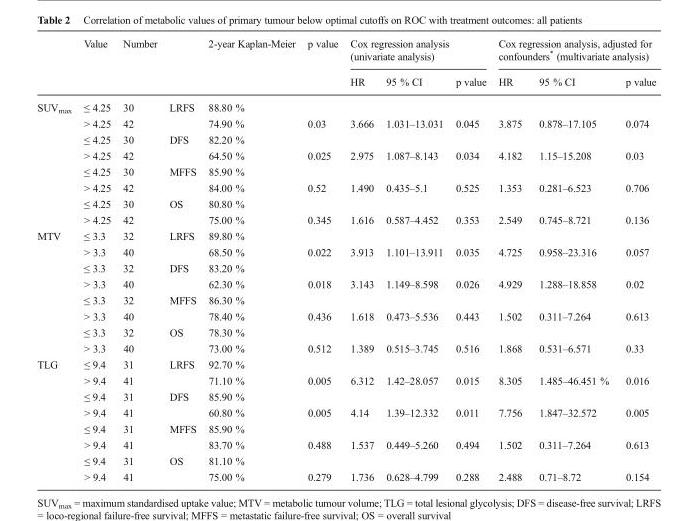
<table><thead><tr><td rowspan="2"></td><td rowspan="2">Value</td><td rowspan="2">Number</td><td rowspan="2"></td><td rowspan="2">2-year Kaplan-Meier</td><td rowspan="2">p value</td><td colspan="3">Cox regression analysis (univariate analysis)</td><td colspan="3">Cox regression analysis, adjusted for confounders* (multivariate analysis)</td></tr><tr><td>HR</td><td>95 % CI</td><td>p value</td><td>HR</td><td>95 % CI</td><td>p value</td></tr></thead><tbody><tr><td rowspan="8">SUV<sub>max</sub></td><td>≤ 4.25</td><td>30</td><td rowspan="2">LRFS</td><td>88.80 %</td><td></td><td></td><td></td><td></td><td></td><td></td><td></td></tr><tr><td>&gt; 4.25</td><td>42</td><td>74.90 %</td><td>0.03</td><td>3.666</td><td>1.031–13.031</td><td>0.045</td><td>3.875</td><td>0.878–17.105</td><td>0.074</td></tr><tr><td>≤ 4.25</td><td>30</td><td rowspan="2">DFS</td><td>82.20 %</td><td></td><td></td><td></td><td></td><td></td><td></td><td></td></tr><tr><td>&gt; 4.25</td><td>42</td><td>64.50 %</td><td>0.025</td><td>2.975</td><td>1.087–8.143</td><td>0.034</td><td>4.182</td><td>1.15–15.208</td><td>0.03</td></tr><tr><td>≤ 4.25</td><td>30</td><td rowspan="2">MFFS</td><td>85.90 %</td><td></td><td></td><td></td><td></td><td></td><td></td><td></td></tr><tr><td>&gt; 4.25</td><td>42</td><td>84.00 %</td><td>0.52</td><td>1.490</td><td>0.435–5.1</td><td>0.525</td><td>1.353</td><td>0.281–6.523</td><td>0.706</td></tr><tr><td>≤ 4.25</td><td>30</td><td rowspan="2">OS</td><td>80.80 %</td><td></td><td></td><td></td><td></td><td></td><td></td><td></td></tr><tr><td>&gt; 4.25</td><td>42</td><td>75.00 %</td><td>0.345</td><td>1.616</td><td>0.587–4.452</td><td>0.353</td><td>2.549</td><td>0.745–8.721</td><td>0.136</td></tr><tr><td rowspan="8">MTV</td><td>≤ 3.3</td><td>32</td><td rowspan="2">LRFS</td><td>89.80 %</td><td></td><td></td><td></td><td></td><td></td><td></td><td></td></tr><tr><td>&gt; 3.3</td><td>40</td><td>68.50 %</td><td>0.022</td><td>3.913</td><td>1.101–13.911</td><td>0.035</td><td>4.725</td><td>0.958–23.316</td><td>0.057</td></tr><tr><td>≤ 3.3</td><td>32</td><td rowspan="2">DFS</td><td>83.20 %</td><td></td><td></td><td></td><td></td><td></td><td></td><td></td></tr><tr><td>&gt; 3.3</td><td>40</td><td>62.30 %</td><td>0.018</td><td>3.143</td><td>1.149–8.598</td><td>0.026</td><td>4.929</td><td>1.288–18.858</td><td>0.02</td></tr><tr><td>≤ 3.3</td><td>32</td><td rowspan="2">MFFS</td><td>86.30 %</td><td></td><td></td><td></td><td></td><td></td><td></td><td></td></tr><tr><td>&gt; 3.3</td><td>40</td><td>78.40 %</td><td>0.436</td><td>1.618</td><td>0.473–5.536</td><td>0.443</td><td>1.502</td><td>0.311–7.264</td><td>0.613</td></tr><tr><td>≤ 3.3</td><td>32</td><td rowspan="2">OS</td><td>78.30 %</td><td></td><td></td><td></td><td></td><td></td><td></td><td></td></tr><tr><td>&gt; 3.3</td><td>40</td><td>73.00 %</td><td>0.512</td><td>1.389</td><td>0.515–3.745</td><td>0.516</td><td>1.868</td><td>0.531–6.571</td><td>0.33</td></tr><tr><td rowspan="8">TLG</td><td>≤ 9.4</td><td>31</td><td rowspan="2">LRFS</td><td>92.70 %</td><td></td><td></td><td></td><td></td><td></td><td></td><td></td></tr><tr><td>&gt; 9.4</td><td>41</td><td>71.10 %</td><td>0.005</td><td>6.312</td><td>1.42–28.057</td><td>0.015</td><td>8.305</td><td>1.485–46.451 %</td><td>0.016</td></tr><tr><td>≤ 9.4</td><td>31</td><td rowspan="2">DFS</td><td>85.90 %</td><td></td><td></td><td></td><td></td><td></td><td></td><td></td></tr><tr><td>&gt; 9.4</td><td>41</td><td>60.80 %</td><td>0.005</td><td>4.14</td><td>1.39–12.332</td><td>0.011</td><td>7.756</td><td>1.847–32.572</td><td>0.005</td></tr><tr><td>≤ 9.4</td><td>31</td><td rowspan="2">MFFS</td><td>85.90 %</td><td></td><td></td><td></td><td></td><td></td><td></td><td></td></tr><tr><td>&gt; 9.4</td><td>41</td><td>83.70 %</td><td>0.488</td><td>1.537</td><td>0.449–5.260</td><td>0.494</td><td>1.502</td><td>0.311–7.264</td><td>0.613</td></tr><tr><td>≤ 9.4</td><td>31</td><td rowspan="2">OS</td><td>81.10 %</td><td></td><td></td><td></td><td></td><td></td><td></td><td></td></tr><tr><td>&gt; 9.4</td><td>41</td><td>75.00 %</td><td>0.279</td><td>1.736</td><td>0.628–4.799</td><td>0.288</td><td>2.488</td><td>0.71–8.72</td><td>0.154</td></tr></tbody></table>